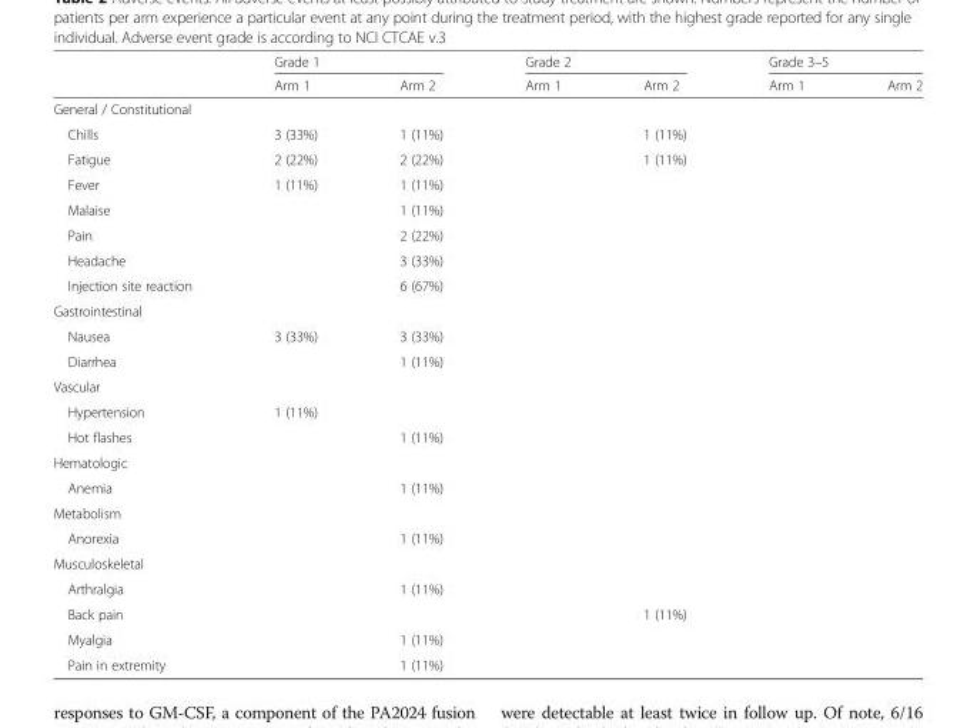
<table><thead><tr><td rowspan="2"></td><td colspan="2">Grade 1</td><td colspan="2">Grade 2</td><td colspan="2">Grade 3–5</td></tr><tr><td>Arm 1</td><td>Arm 2</td><td>Arm 1</td><td>Arm 2</td><td>Arm 1</td><td>Arm 2</td></tr></thead><tbody><tr><td colspan="7">General / Constitutional</td></tr><tr><td>Chills</td><td>3 (33%)</td><td>1 (11%)</td><td></td><td>1 (11%)</td><td></td><td></td></tr><tr><td>Fatigue</td><td>2 (22%)</td><td>2 (22%)</td><td></td><td>1 (11%)</td><td></td><td></td></tr><tr><td>Fever</td><td>1 (11%)</td><td>1 (11%)</td><td></td><td></td><td></td><td></td></tr><tr><td>Malaise</td><td></td><td>1 (11%)</td><td></td><td></td><td></td><td></td></tr><tr><td>Pain</td><td></td><td>2 (22%)</td><td></td><td></td><td></td><td></td></tr><tr><td>Headache</td><td></td><td>3 (33%)</td><td></td><td></td><td></td><td></td></tr><tr><td>Injection site reaction</td><td></td><td>6 (67%)</td><td></td><td></td><td></td><td></td></tr><tr><td colspan="7">Gastrointestinal</td></tr><tr><td>Nausea</td><td>3 (33%)</td><td>3 (33%)</td><td></td><td></td><td></td><td></td></tr><tr><td>Diarrhea</td><td></td><td>1 (11%)</td><td></td><td></td><td></td><td></td></tr><tr><td colspan="7">Vascular</td></tr><tr><td>Hypertension</td><td>1 (11%)</td><td></td><td></td><td></td><td></td><td></td></tr><tr><td>Hot flashes</td><td></td><td>1 (11%)</td><td></td><td></td><td></td><td></td></tr><tr><td colspan="7">Hematologic</td></tr><tr><td>Anemia</td><td></td><td>1 (11%)</td><td></td><td></td><td></td><td></td></tr><tr><td colspan="7">Metabolism</td></tr><tr><td>Anorexia</td><td></td><td>1 (11%)</td><td></td><td></td><td></td><td></td></tr><tr><td colspan="7">Musculoskeletal</td></tr><tr><td>Arthralgia</td><td></td><td>1 (11%)</td><td></td><td></td><td></td><td></td></tr><tr><td>Back pain</td><td></td><td></td><td></td><td>1 (11%)</td><td></td><td></td></tr><tr><td>Myalgia</td><td></td><td>1 (11%)</td><td></td><td></td><td></td><td></td></tr><tr><td>Pain in extremity</td><td></td><td>1 (11%)</td><td></td><td></td><td></td><td></td></tr></tbody></table>